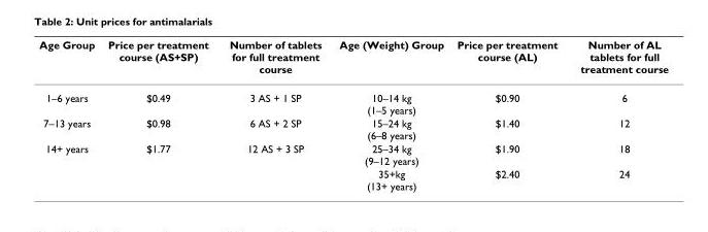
<table><thead><tr><td>Age Group</td><td>Price per treatment course (AS+SP)</td><td>Number of tablets for full treatment course</td><td>Age (Weight) Group</td><td>Price per treatment course (AL)</td><td>Number of AL tablets for full treatment course</td></tr></thead><tbody><tr><td>1–6 years</td><td>$0.49</td><td>3 AS + 1 SP</td><td>10–14 kg (1–5 years)</td><td>$0.90</td><td>6</td></tr><tr><td>7–13 years</td><td>$0.98</td><td>6 AS + 2 SP</td><td>15–24 kg (6–8 years)</td><td>$1.40</td><td>12</td></tr><tr><td rowspan="2">14+ years</td><td>$1.77</td><td>12 AS + 3 SP</td><td>25–34 kg (9–12 years)</td><td>$1.90</td><td>18</td></tr><tr><td></td><td></td><td>35+kg (13+ years)</td><td>$2.40</td><td>24</td></tr></tbody></table>